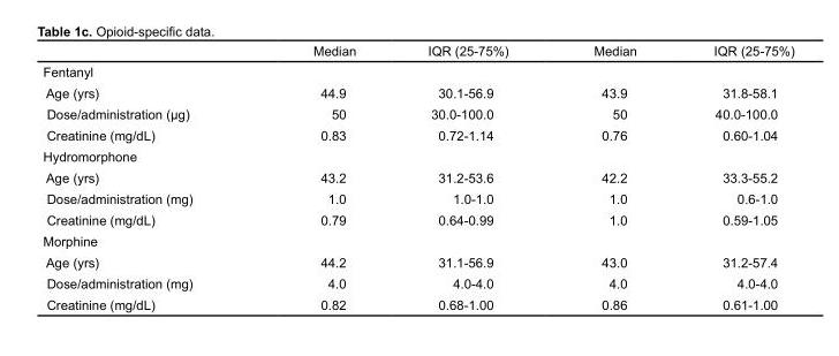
<table><thead><tr><td></td><td>Median</td><td>IQR (25-75%)</td><td>Median</td><td>IQR (25-75%)</td></tr></thead><tbody><tr><td colspan="5">Fentanyl</td></tr><tr><td>Age (yrs)</td><td>44.9</td><td>30.1-56.9</td><td>43.9</td><td>31.8-58.1</td></tr><tr><td>Dose/administration (µg)</td><td>50</td><td>30.0-100.0</td><td>50</td><td>40.0-100.0</td></tr><tr><td>Creatinine (mg/dL)</td><td>0.83</td><td>0.72-1.14</td><td>0.76</td><td>0.60-1.04</td></tr><tr><td colspan="5">Hydromorphone</td></tr><tr><td>Age (yrs)</td><td>43.2</td><td>31.2-53.6</td><td>42.2</td><td>33.3-55.2</td></tr><tr><td>Dose/administration (mg)</td><td>1.0</td><td>1.0-1.0</td><td>1.0</td><td>0.6-1.0</td></tr><tr><td>Creatinine (mg/dL)</td><td>0.79</td><td>0.64-0.99</td><td>1.0</td><td>0.59-1.05</td></tr><tr><td colspan="5">Morphine</td></tr><tr><td>Age (yrs)</td><td>44.2</td><td>31.1-56.9</td><td>43.0</td><td>31.2-57.4</td></tr><tr><td>Dose/administration (mg)</td><td>4.0</td><td>4.0-4.0</td><td>4.0</td><td>4.0-4.0</td></tr><tr><td>Creatinine (mg/dL)</td><td>0.82</td><td>0.68-1.00</td><td>0.86</td><td>0.61-1.00</td></tr></tbody></table>